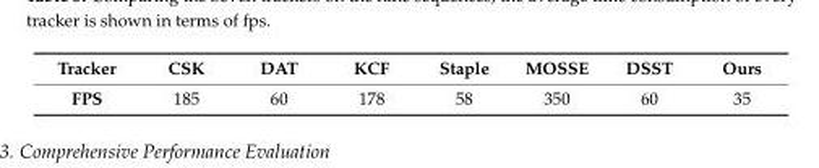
<table><thead><tr><td>Tracker</td><td>CSK</td><td>DAT</td><td>KCF</td><td>Staple</td><td>MOSSE</td><td>DSST</td><td>Ours</td></tr></thead><tbody><tr><td>FPS</td><td>185</td><td>60</td><td>178</td><td>58</td><td>350</td><td>60</td><td>35</td></tr></tbody></table>